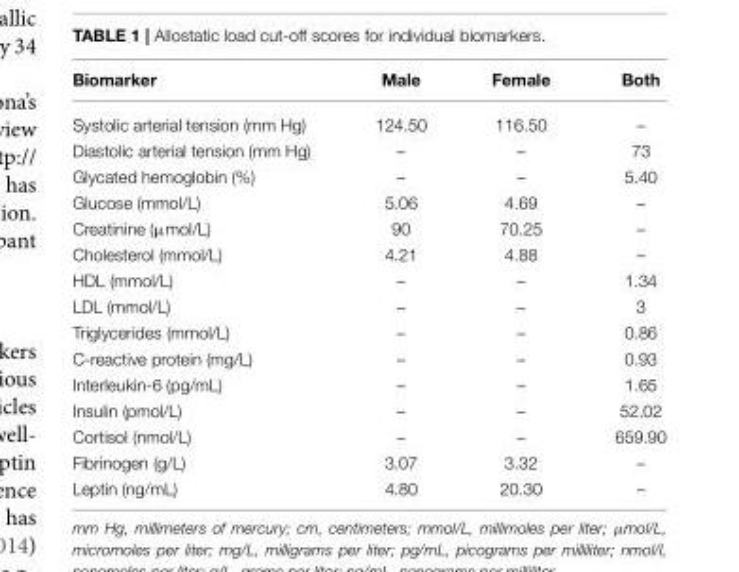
<table><thead><tr><td>Biomarker</td><td>Male</td><td>Female</td><td>Both</td></tr></thead><tbody><tr><td>Systolic arterial tension (mm Hg)</td><td>124.50</td><td>116.50</td><td>–</td></tr><tr><td>Diastolic arterial tension (mm Hg)</td><td>–</td><td>–</td><td>73</td></tr><tr><td>Glycated hemoglobin (%)</td><td>–</td><td>–</td><td>5.40</td></tr><tr><td>Glucose (mmol/L)</td><td>5.06</td><td>4.69</td><td>–</td></tr><tr><td>Creatinine (µmol/L)</td><td>90</td><td>70.25</td><td>–</td></tr><tr><td>Cholesterol (mmol/L)</td><td>4.21</td><td>4.88</td><td>–</td></tr><tr><td>HDL (mmol/L)</td><td>–</td><td>–</td><td>1.34</td></tr><tr><td>LDL (mmol/L)</td><td>–</td><td>–</td><td>3</td></tr><tr><td>Triglycerides (mmol/L)</td><td>–</td><td>–</td><td>0.86</td></tr><tr><td>C-reactive protein (mg/L)</td><td>–</td><td>–</td><td>0.93</td></tr><tr><td>Interleukin-6 (pg/mL)</td><td>–</td><td>–</td><td>1.65</td></tr><tr><td>Insulin (pmol/L)</td><td>–</td><td>–</td><td>52.02</td></tr><tr><td>Cortisol (nmol/L)</td><td>–</td><td>–</td><td>659.90</td></tr><tr><td>Fibrinogen (g/L)</td><td>3.07</td><td>3.32</td><td>–</td></tr><tr><td>Leptin (ng/mL)</td><td>4.80</td><td>20.30</td><td>–</td></tr></tbody></table>